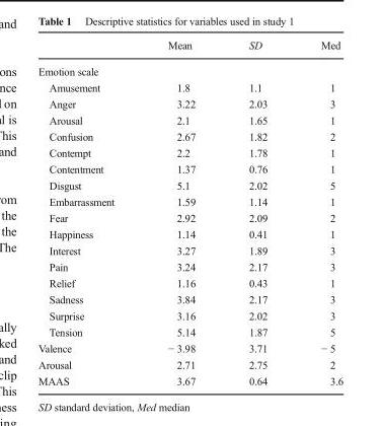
<table><thead><tr><td></td><td>Mean</td><td>SD</td><td>Med</td></tr></thead><tbody><tr><td colspan="4">Emotion scale</td></tr><tr><td>Amusement</td><td>1.8</td><td>1.1</td><td>1</td></tr><tr><td>Anger</td><td>3.22</td><td>2.03</td><td>3</td></tr><tr><td>Arousal</td><td>2.1</td><td>1.65</td><td>1</td></tr><tr><td>Confusion</td><td>2.67</td><td>1.82</td><td>2</td></tr><tr><td>Contempt</td><td>2.2</td><td>1.78</td><td>1</td></tr><tr><td>Contentment</td><td>1.37</td><td>0.76</td><td>1</td></tr><tr><td>Disgust</td><td>5.1</td><td>2.02</td><td>5</td></tr><tr><td>Embarrassment</td><td>1.59</td><td>1.14</td><td>1</td></tr><tr><td>Fear</td><td>2.92</td><td>2.09</td><td>2</td></tr><tr><td>Happiness</td><td>1.14</td><td>0.41</td><td>1</td></tr><tr><td>Interest</td><td>3.27</td><td>1.89</td><td>3</td></tr><tr><td>Pain</td><td>3.24</td><td>2.17</td><td>3</td></tr><tr><td>Relief</td><td>1.16</td><td>0.43</td><td>1</td></tr><tr><td>Sadness</td><td>3.84</td><td>2.17</td><td>3</td></tr><tr><td>Surprise</td><td>3.16</td><td>2.02</td><td>3</td></tr><tr><td>Tension</td><td>5.14</td><td>1.87</td><td>5</td></tr><tr><td>Valence</td><td>− 3.98</td><td>3.71</td><td>− 5</td></tr><tr><td>Arousal</td><td>2.71</td><td>2.75</td><td>2</td></tr><tr><td>MAAS</td><td>3.67</td><td>0.64</td><td>3.6</td></tr></tbody></table>